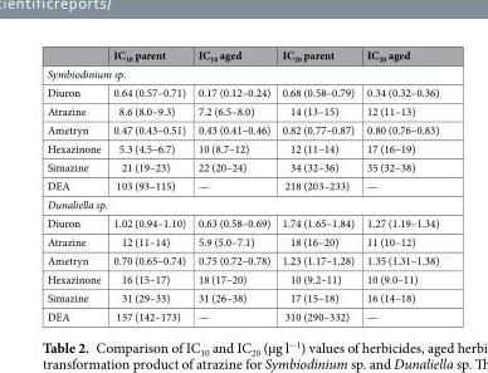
<table><thead><tr><td></td><td>IC<sub>10</sub> parent</td><td>IC<sub>10</sub> aged</td><td>IC<sub>20</sub> parent</td><td>IC<sub>20</sub> aged</td></tr></thead><tbody><tr><td colspan="5">Symbiodinium sp.</td></tr><tr><td>Diuron</td><td>0.64 (0.57–0.71)</td><td>0.17 (0.12–0.24)</td><td>0.68 (0.58–0.79)</td><td>0.34 (0.32–0.36)</td></tr><tr><td>Atrazine</td><td>8.6 (8.0–9.3)</td><td>7.2 (6.5–8.0)</td><td>14 (13–15)</td><td>12 (11–13)</td></tr><tr><td>Ametryn</td><td>0.47 (0.43–0.51)</td><td>0.43 (0.41–0.46)</td><td>0.82 (0.77–0.87)</td><td>0.80 (0.76–0.83)</td></tr><tr><td>Hexazinone</td><td>5.3 (4.5–6.7)</td><td>10 (8.7–12)</td><td>12 (11–14)</td><td>17 (16–19)</td></tr><tr><td>Simazine</td><td>21 (19–23)</td><td>22 (20–24)</td><td>34 (32–36)</td><td>35 (32–38)</td></tr><tr><td>DEA</td><td>103 (93–115)</td><td>—</td><td>218 (203–233)</td><td>—</td></tr><tr><td colspan="5">Dunaliella sp.</td></tr><tr><td>Diuron</td><td>1.02 (0.94–1.10)</td><td>0.63 (0.58–0.69)</td><td>1.74 (1.65–1.84)</td><td>1.27 (1.19–1.34)</td></tr><tr><td>Atrazine</td><td>12 (11–14)</td><td>5.9 (5.0–7.1)</td><td>18 (16–20)</td><td>11 (10–12)</td></tr><tr><td>Ametryn</td><td>0.70 (0.65–0.74)</td><td>0.75 (0.72–0.78)</td><td>1.23 (1.17–1.28)</td><td>1.35 (1.31–1.38)</td></tr><tr><td>Hexazinone</td><td>16 (15–17)</td><td>18 (17–20)</td><td>10 (9.2–11)</td><td>10 (9.0–11)</td></tr><tr><td>Simazine</td><td>31 (29–33)</td><td>31 (26–38)</td><td>17 (15–18)</td><td>16 (14–18)</td></tr><tr><td>DEA</td><td>157 (142–173)</td><td>—</td><td>310 (290–332)</td><td>—</td></tr></tbody></table>